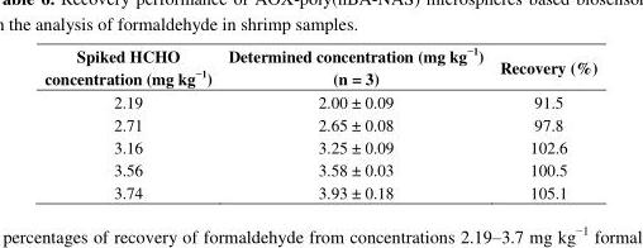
<table><thead><tr><td>Spiked HCHO concentration (mg kg<sup>−1</sup>)</td><td>Determined concentration (mg kg<sup>−1</sup>) (n = 3)</td><td>Recovery (%)</td></tr></thead><tbody><tr><td>2.19</td><td>2.00 ± 0.09</td><td>91.5</td></tr><tr><td>2.71</td><td>2.65 ± 0.08</td><td>97.8</td></tr><tr><td>3.16</td><td>3.25 ± 0.09</td><td>102.6</td></tr><tr><td>3.56</td><td>3.58 ± 0.03</td><td>100.5</td></tr><tr><td>3.74</td><td>3.93 ± 0.18</td><td>105.1</td></tr></tbody></table>